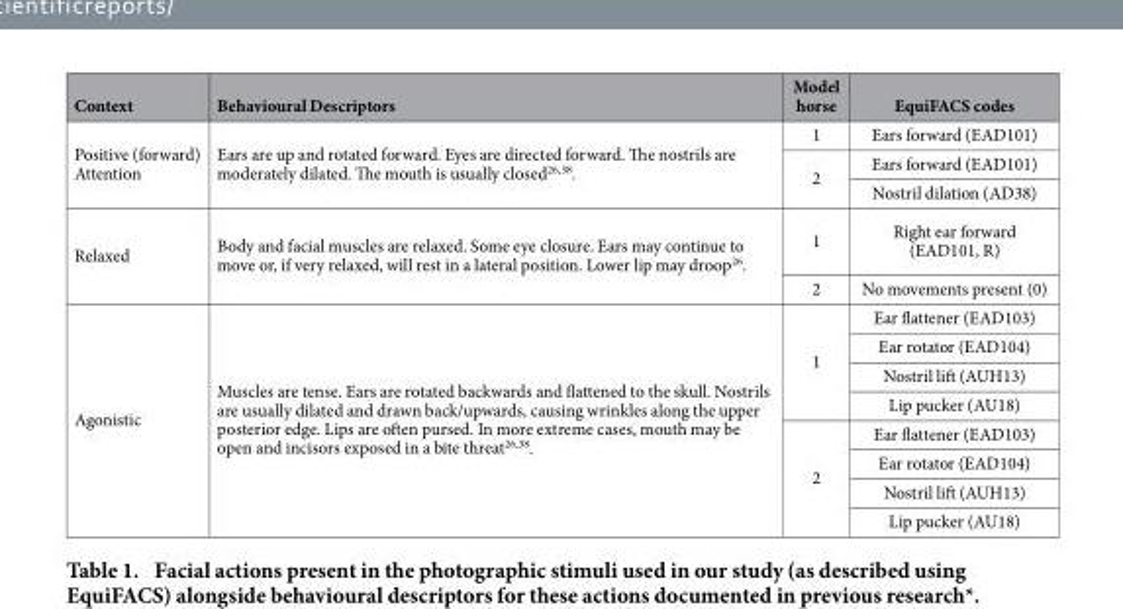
<table><thead><tr><td>Context</td><td>Behavioural Descriptors</td><td>Model horse</td><td>EquiFACS codes</td></tr></thead><tbody><tr><td rowspan="3">Positive (forward) Attention</td><td rowspan="3">Ears are up and rotated forward. Eyes are directed forward. The nostrils are moderately dilated. The mouth is usually closed<sup>26</sup>,<sup>38</sup>.</td><td>1</td><td>Ears forward (EAD101)</td></tr><tr><td rowspan="2">2</td><td>Ears forward (EAD101)</td></tr><tr><td>Nostril dilation (AD38)</td></tr><tr><td rowspan="2">Relaxed</td><td rowspan="2">Body and facial muscles are relaxed. Some eye closure. Ears may continue to move or, if very relaxed, will rest in a lateral position. Lower lip may droop<sup>26</sup>.</td><td>1</td><td>Right ear forward (EAD101, R)</td></tr><tr><td>2</td><td>No movements present (0)</td></tr><tr><td rowspan="8">Agonistic</td><td rowspan="8">Muscles are tense. Ears are rotated backwards and flattened to the skull. Nostrils are usually dilated and drawn back/upwards, causing wrinkles along the upper posterior edge. Lips are often pursed. In more extreme cases, mouth may be open and incisors exposed in a bite threat<sup>26</sup>,<sup>38</sup>.</td><td rowspan="4">1</td><td>Ear flattener (EAD103)</td></tr><tr><td>Ear rotator (EAD104)</td></tr><tr><td>Nostril lift (AUH13)</td></tr><tr><td>Lip pucker (AU18)</td></tr><tr><td rowspan="4">2</td><td>Ear flattener (EAD103)</td></tr><tr><td>Ear rotator (EAD104)</td></tr><tr><td>Nostril lift (AUH13)</td></tr><tr><td>Lip pucker (AU18)</td></tr></tbody></table>